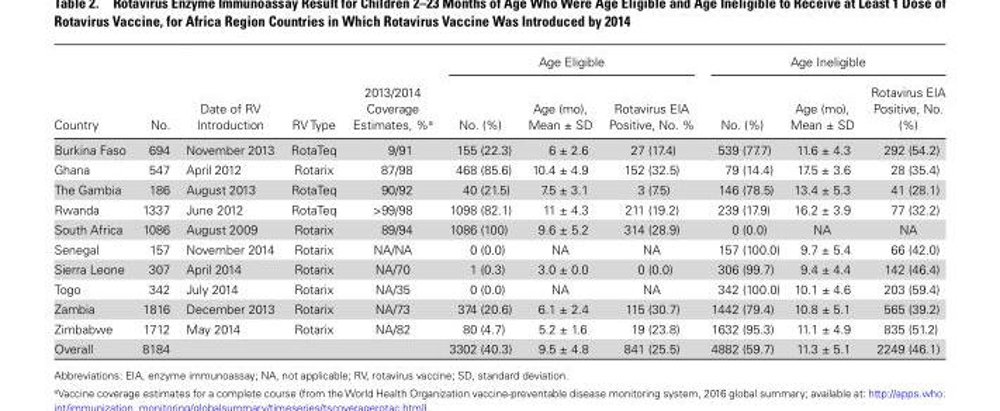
<table><thead><tr><td rowspan="2">Country</td><td rowspan="2">No.</td><td rowspan="2">Date of RV Introduction</td><td rowspan="2">RV Type</td><td rowspan="2">2013/2014 Coverage Estimates, %<sup>a</sup></td><td colspan="3">Age Eligible</td><td colspan="3">Age Ineligible</td></tr><tr><td>No. (%)</td><td>Age (mo), Mean ± SD</td><td>Rotavirus EIA Positive, No. %</td><td>No. (%)</td><td>Age (mo), Mean ± SD</td><td>Rotavirus EIA Positive, No. (%)</td></tr></thead><tbody><tr><td>Burkina Faso</td><td>694</td><td>November 2013</td><td>RotaTeq</td><td>9/91</td><td>155 (22.3)</td><td>6 ± 2.6</td><td>27 (17.4)</td><td>539 (77.7)</td><td>11.6 ± 4.3</td><td>292 (54.2)</td></tr><tr><td>Ghana</td><td>547</td><td>April 2012</td><td>Rotarix</td><td>87/98</td><td>468 (85.6)</td><td>10.4 ± 4.9</td><td>152 (32.5)</td><td>79 (14.4)</td><td>17.5 ± 3.6</td><td>28 (35.4)</td></tr><tr><td>The Gambia</td><td>186</td><td>August 2013</td><td>RotaTeq</td><td>90/92</td><td>40 (21.5)</td><td>7.5 ± 3.1</td><td>3 (7.5)</td><td>146 (78.5)</td><td>13.4 ± 5.3</td><td>41 (28.1)</td></tr><tr><td>Rwanda</td><td>1337</td><td>June 2012</td><td>RotaTeq</td><td>&gt;99/98</td><td>1098 (82.1)</td><td>11 ± 4.3</td><td>211 (19.2)</td><td>239 (17.9)</td><td>16.2 ± 3.9</td><td>77 (32.2)</td></tr><tr><td>South Africa</td><td>1086</td><td>August 2009</td><td>Rotarix</td><td>89/94</td><td>1086 (100)</td><td>9.6 ± 5.2</td><td>314 (28.9)</td><td>0 (0.0)</td><td>NA</td><td>NA</td></tr><tr><td>Senegal</td><td>157</td><td>November 2014</td><td>Rotarix</td><td>NA/NA</td><td>0 (0.0)</td><td>NA</td><td>NA</td><td>157 (100.0)</td><td>9.7 ± 5.4</td><td>66 (42.0)</td></tr><tr><td>Sierra Leone</td><td>307</td><td>April 2014</td><td>Rotarix</td><td>NA/70</td><td>1 (0.3)</td><td>3.0 ± 0.0</td><td>0 (0.0)</td><td>306 (99.7)</td><td>9.4 ± 4.4</td><td>142 (46.4)</td></tr><tr><td>Togo</td><td>342</td><td>July 2014</td><td>Rotarix</td><td>NA/35</td><td>0 (0.0)</td><td>NA</td><td>NA</td><td>342 (100.0)</td><td>10.1 ± 4.6</td><td>203 (59.4)</td></tr><tr><td>Zambia</td><td>1816</td><td>December 2013</td><td>Rotarix</td><td>NA/73</td><td>374 (20.6)</td><td>6.1 ± 2.4</td><td>115 (30.7)</td><td>1442 (79.4)</td><td>10.8 ± 5.1</td><td>565 (39.2)</td></tr><tr><td>Zimbabwe</td><td>1712</td><td>May 2014</td><td>Rotarix</td><td>NA/82</td><td>80 (4.7)</td><td>5.2 ± 1.6</td><td>19 (23.8)</td><td>1632 (95.3)</td><td>11.1 ± 4.9</td><td>835 (51.2)</td></tr><tr><td>Overall</td><td>8184</td><td></td><td></td><td></td><td>3302 (40.3)</td><td>9.5 ± 4.8</td><td>841 (25.5)</td><td>4882 (59.7)</td><td>11.3 ± 5.1</td><td>2249 (46.1)</td></tr></tbody></table>